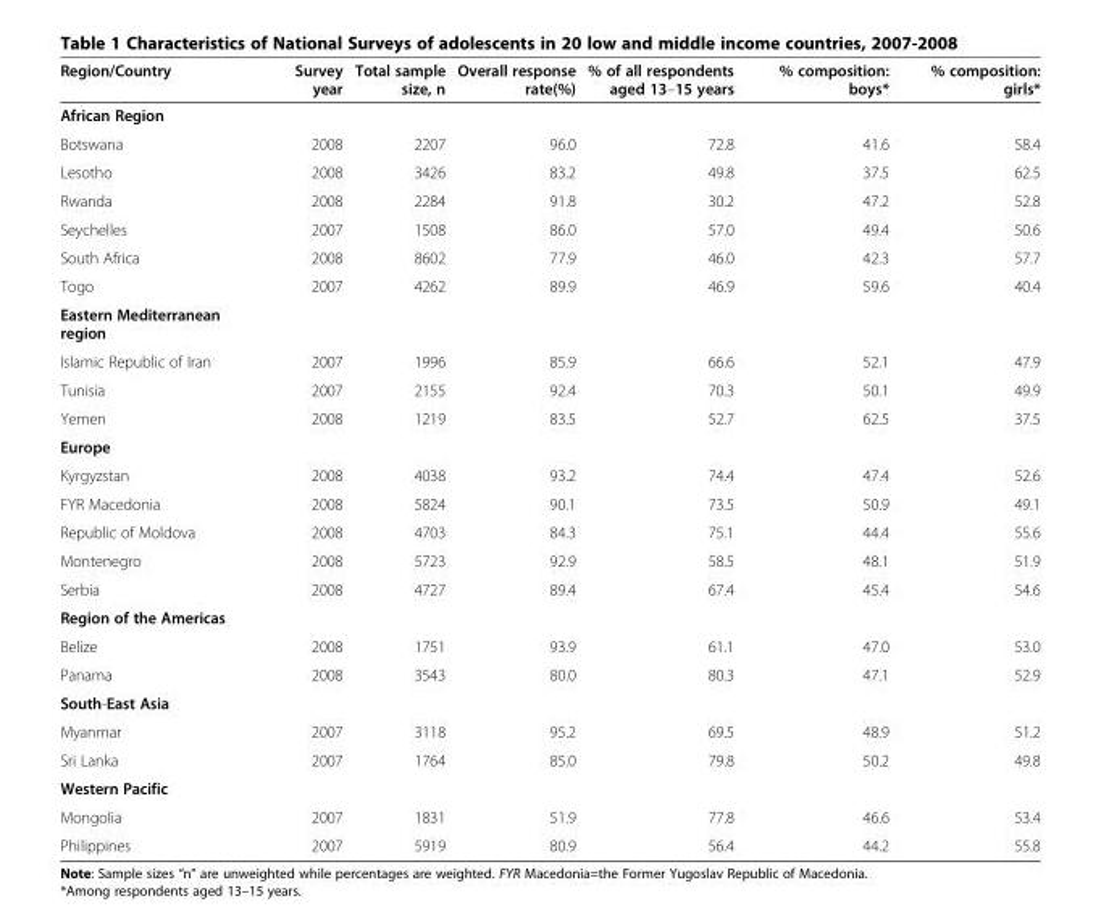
<table><thead><tr><td>Region/Country</td><td>Survey year</td><td>Total sample size, n</td><td>Overall response rate(%)</td><td>% of all respondents aged 13–15 years</td><td>% composition: boys*</td><td>% composition: girls*</td></tr></thead><tbody><tr><td colspan="7">African Region</td></tr><tr><td>Botswana</td><td>2008</td><td>2207</td><td>96.0</td><td>72.8</td><td>41.6</td><td>58.4</td></tr><tr><td>Lesotho</td><td>2008</td><td>3426</td><td>83.2</td><td>49.8</td><td>37.5</td><td>62.5</td></tr><tr><td>Rwanda</td><td>2008</td><td>2284</td><td>91.8</td><td>30.2</td><td>47.2</td><td>52.8</td></tr><tr><td>Seychelles</td><td>2007</td><td>1508</td><td>86.0</td><td>57.0</td><td>49.4</td><td>50.6</td></tr><tr><td>South Africa</td><td>2008</td><td>8602</td><td>77.9</td><td>46.0</td><td>42.3</td><td>57.7</td></tr><tr><td>Togo</td><td>2007</td><td>4262</td><td>89.9</td><td>46.9</td><td>59.6</td><td>40.4</td></tr><tr><td colspan="7">Eastern Mediterranean region</td></tr><tr><td>Islamic Republic of Iran</td><td>2007</td><td>1996</td><td>85.9</td><td>66.6</td><td>52.1</td><td>47.9</td></tr><tr><td>Tunisia</td><td>2007</td><td>2155</td><td>92.4</td><td>70.3</td><td>50.1</td><td>49.9</td></tr><tr><td>Yemen</td><td>2008</td><td>1219</td><td>83.5</td><td>52.7</td><td>62.5</td><td>37.5</td></tr><tr><td colspan="7">Europe</td></tr><tr><td>Kyrgyzstan</td><td>2008</td><td>4038</td><td>93.2</td><td>74.4</td><td>47.4</td><td>52.6</td></tr><tr><td>FYR Macedonia</td><td>2008</td><td>5824</td><td>90.1</td><td>73.5</td><td>50.9</td><td>49.1</td></tr><tr><td>Republic of Moldova</td><td>2008</td><td>4703</td><td>84.3</td><td>75.1</td><td>44.4</td><td>55.6</td></tr><tr><td>Montenegro</td><td>2008</td><td>5723</td><td>92.9</td><td>58.5</td><td>48.1</td><td>51.9</td></tr><tr><td>Serbia</td><td>2008</td><td>4727</td><td>89.4</td><td>67.4</td><td>45.4</td><td>54.6</td></tr><tr><td colspan="7">Region of the Americas</td></tr><tr><td>Belize</td><td>2008</td><td>1751</td><td>93.9</td><td>61.1</td><td>47.0</td><td>53.0</td></tr><tr><td>Panama</td><td>2008</td><td>3543</td><td>80.0</td><td>80.3</td><td>47.1</td><td>52.9</td></tr><tr><td colspan="7">South-East Asia</td></tr><tr><td>Myanmar</td><td>2007</td><td>3118</td><td>95.2</td><td>69.5</td><td>48.9</td><td>51.2</td></tr><tr><td>Sri Lanka</td><td>2007</td><td>1764</td><td>85.0</td><td>79.8</td><td>50.2</td><td>49.8</td></tr><tr><td colspan="7">Western Pacific</td></tr><tr><td>Mongolia</td><td>2007</td><td>1831</td><td>51.9</td><td>77.8</td><td>46.6</td><td>53.4</td></tr><tr><td>Philippines</td><td>2007</td><td>5919</td><td>80.9</td><td>56.4</td><td>44.2</td><td>55.8</td></tr></tbody></table>